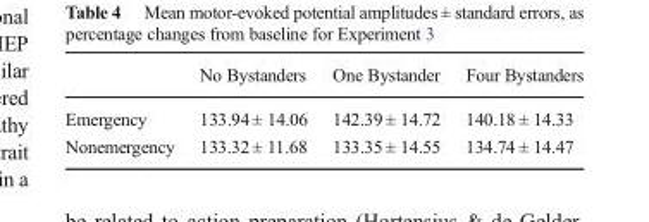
<table><thead><tr><td></td><td>No Bystanders</td><td>One Bystander</td><td>Four Bystanders</td></tr></thead><tbody><tr><td>Emergency</td><td>133.94 ± 14.06</td><td>142.39 ± 14.72</td><td>140.18 ± 14.33</td></tr><tr><td>Nonemergency</td><td>133.32 ± 11.68</td><td>133.35 ± 14.55</td><td>134.74 ± 14.47</td></tr></tbody></table>